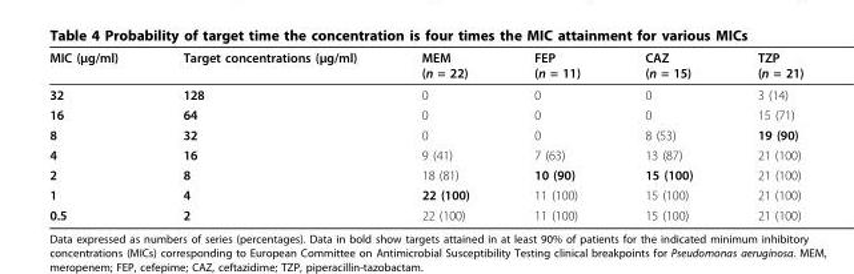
<table><thead><tr><td>MIC (μg/ml)</td><td>Target concentrations (μg/ml)</td><td>MEM (n = 22)</td><td>FEP (n = 11)</td><td>CAZ (n = 15)</td><td>TZP (n = 21)</td></tr></thead><tbody><tr><td>32</td><td>128</td><td>0</td><td>0</td><td>0</td><td>3 (14)</td></tr><tr><td>16</td><td>64</td><td>0</td><td>0</td><td>0</td><td>15 (71)</td></tr><tr><td>8</td><td>32</td><td>0</td><td>0</td><td>8 (53)</td><td>19 (90)</td></tr><tr><td>4</td><td>16</td><td>9 (41)</td><td>7 (63)</td><td>13 (87)</td><td>21 (100)</td></tr><tr><td>2</td><td>8</td><td>18 (81)</td><td>10 (90)</td><td>15 (100)</td><td>21 (100)</td></tr><tr><td>1</td><td>4</td><td>22 (100)</td><td>11 (100)</td><td>15 (100)</td><td>21 (100)</td></tr><tr><td>0.5</td><td>2</td><td>22 (100)</td><td>11 (100)</td><td>15 (100)</td><td>21 (100)</td></tr></tbody></table>